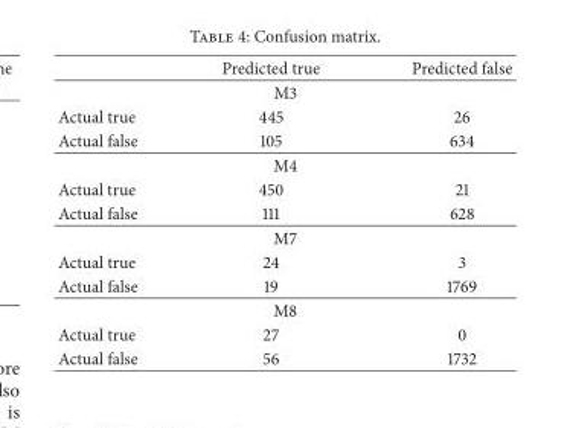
<table><thead><tr><td></td><td>Predicted true</td><td>Predicted false</td></tr></thead><tbody><tr><td colspan="3">M3</td></tr><tr><td>Actual true</td><td>445</td><td>26</td></tr><tr><td>Actual false</td><td>105</td><td>634</td></tr><tr><td colspan="3">M4</td></tr><tr><td>Actual true</td><td>450</td><td>21</td></tr><tr><td>Actual false</td><td>111</td><td>628</td></tr><tr><td colspan="3">M7</td></tr><tr><td>Actual true</td><td>24</td><td>3</td></tr><tr><td>Actual false</td><td>19</td><td>1769</td></tr><tr><td colspan="3">M8</td></tr><tr><td>Actual true</td><td>27</td><td>0</td></tr><tr><td>Actual false</td><td>56</td><td>1732</td></tr></tbody></table>